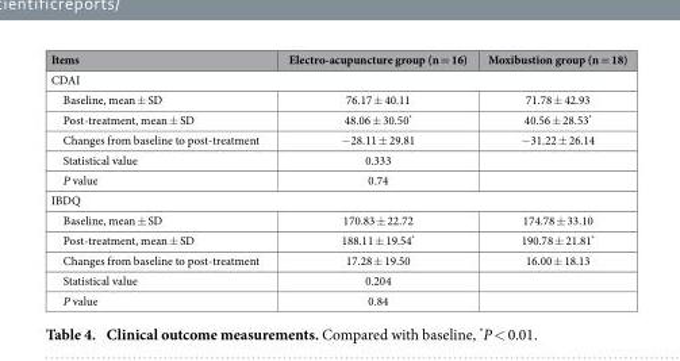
<table><thead><tr><td>Items</td><td>Electro-acupuncture group (n = 16)</td><td>Moxibustion group (n = 18)</td></tr></thead><tbody><tr><td colspan="3">CDAI</td></tr><tr><td>Baseline, mean ± SD</td><td>76.17 ± 40.11</td><td>71.78 ± 42.93</td></tr><tr><td>Post-treatment, mean ± SD</td><td>48.06 ± 30.50*</td><td>40.56 ± 28.53*</td></tr><tr><td>Changes from baseline to post-treatment</td><td>− 28.11 ± 29.81</td><td>− 31.22 ± 26.14</td></tr><tr><td>Statistical value</td><td>0.333</td><td></td></tr><tr><td>P value</td><td>0.74</td><td></td></tr><tr><td colspan="3">IBDQ</td></tr><tr><td>Baseline, mean ± SD</td><td>170.83 ± 22.72</td><td>174.78 ± 33.10</td></tr><tr><td>Post-treatment, mean ± SD</td><td>188.11 ± 19.54*</td><td>190.78 ± 21.81*</td></tr><tr><td>Changes from baseline to post-treatment</td><td>17.28 ± 19.50</td><td>16.00 ± 18.13</td></tr><tr><td>Statistical value</td><td>0.204</td><td></td></tr><tr><td>P value</td><td>0.84</td><td></td></tr></tbody></table>